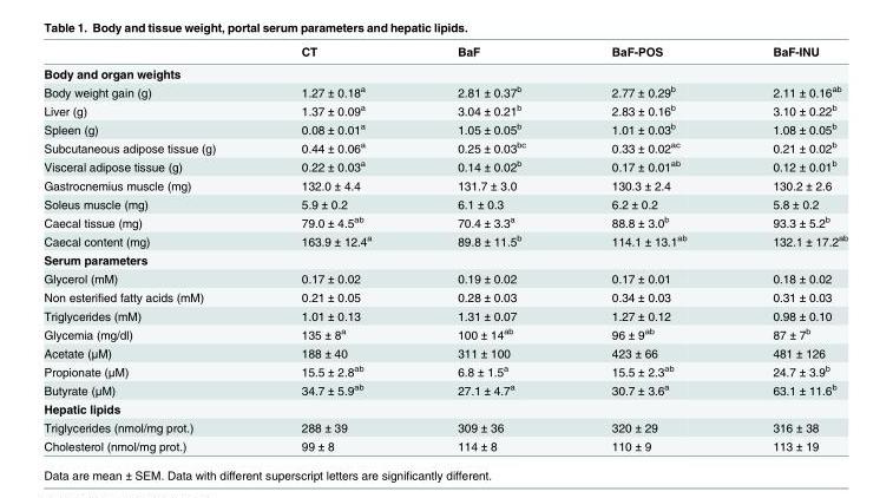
<table><thead><tr><td></td><td>CT</td><td>BaF</td><td>BaF-POS</td><td>BaF-INU</td></tr></thead><tbody><tr><td colspan="5">Body and organ weights</td></tr><tr><td>Body weight gain (g)</td><td>1.27 ± 0.18<sup>a</sup></td><td>2.81 ± 0.37<sup>b</sup></td><td>2.77 ± 0.29<sup>b</sup></td><td>2.11 ± 0.16<sup>ab</sup></td></tr><tr><td>Liver (g)</td><td>1.37 ± 0.09<sup>a</sup></td><td>3.04 ± 0.21<sup>b</sup></td><td>2.83 ± 0.16<sup>b</sup></td><td>3.10 ± 0.22<sup>b</sup></td></tr><tr><td>Spleen (g)</td><td>0.08 ± 0.01<sup>a</sup></td><td>1.05 ± 0.05<sup>b</sup></td><td>1.01 ± 0.03<sup>b</sup></td><td>1.08 ± 0.05<sup>b</sup></td></tr><tr><td>Subcutaneous adipose tissue (g)</td><td>0.44 ± 0.06<sup>a</sup></td><td>0.25 ± 0.03<sup>bc</sup></td><td>0.33 ± 0.02<sup>ac</sup></td><td>0.21 ± 0.02<sup>b</sup></td></tr><tr><td>Visceral adipose tissue (g)</td><td>0.22 ± 0.03<sup>a</sup></td><td>0.14 ± 0.02<sup>b</sup></td><td>0.17 ± 0.01<sup>ab</sup></td><td>0.12 ± 0.01<sup>b</sup></td></tr><tr><td>Gastrocnemius muscle (mg)</td><td>132.0 ± 4.4</td><td>131.7 ± 3.0</td><td>130.3 ± 2.4</td><td>130.2 ± 2.6</td></tr><tr><td>Soleus muscle (mg)</td><td>5.9 ± 0.2</td><td>6.1 ± 0.3</td><td>6.2 ± 0.2</td><td>5.8 ± 0.2</td></tr><tr><td>Caecal tissue (mg)</td><td>79.0 ± 4.5<sup>ab</sup></td><td>70.4 ± 3.3<sup>a</sup></td><td>88.8 ± 3.0<sup>b</sup></td><td>93.3 ± 5.2<sup>b</sup></td></tr><tr><td>Caecal content (mg)</td><td>163.9 ± 12.4<sup>a</sup></td><td>89.8 ± 11.5<sup>b</sup></td><td>114.1 ± 13.1<sup>ab</sup></td><td>132.1 ± 17.2<sup>ab</sup></td></tr><tr><td colspan="5">Serum parameters</td></tr><tr><td>Glycerol (mM)</td><td>0.17 ± 0.02</td><td>0.19 ± 0.02</td><td>0.17 ± 0.01</td><td>0.18 ± 0.02</td></tr><tr><td>Non esterified fatty acids (mM)</td><td>0.21 ± 0.05</td><td>0.28 ± 0.03</td><td>0.34 ± 0.03</td><td>0.31 ± 0.03</td></tr><tr><td>Triglycerides (mM)</td><td>1.01 ± 0.13</td><td>1.31 ± 0.07</td><td>1.27 ± 0.12</td><td>0.98 ± 0.10</td></tr><tr><td>Glycemia (mg/dl)</td><td>135 ± 8<sup>a</sup></td><td>100 ± 14<sup>ab</sup></td><td>96 ± 9<sup>ab</sup></td><td>87 ± 7<sup>b</sup></td></tr><tr><td>Acetate (μM)</td><td>188 ± 40</td><td>311 ± 100</td><td>423 ± 66</td><td>481 ± 126</td></tr><tr><td>Propionate (μM)</td><td>15.5 ± 2.8<sup>ab</sup></td><td>6.8 ± 1.5<sup>a</sup></td><td>15.5 ± 2.3<sup>ab</sup></td><td>24.7 ± 3.9<sup>b</sup></td></tr><tr><td>Butyrate (μM)</td><td>34.7 ± 5.9<sup>ab</sup></td><td>27.1 ± 4.7<sup>a</sup></td><td>30.7 ± 3.6<sup>a</sup></td><td>63.1 ± 11.6<sup>b</sup></td></tr><tr><td colspan="5">Hepatic lipids</td></tr><tr><td>Triglycerides (nmol/mg prot.)</td><td>288 ± 39</td><td>309 ± 36</td><td>320 ± 29</td><td>316 ± 38</td></tr><tr><td>Cholesterol (nmol/mg prot.)</td><td>99 ± 8</td><td>114 ± 8</td><td>110 ± 9</td><td>113 ± 19</td></tr></tbody></table>